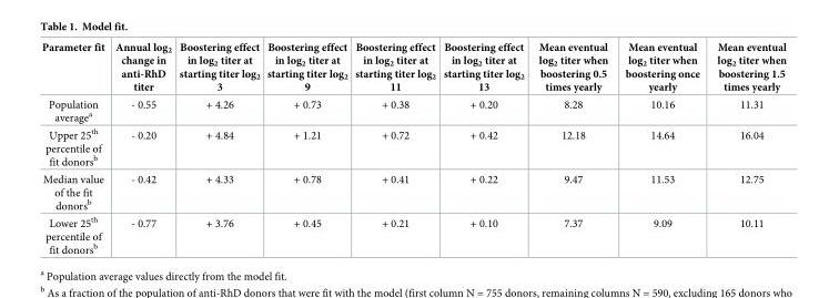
<table><thead><tr><td>Parameter fit</td><td>Annual log<sub>2</sub> change in anti-RhD titer</td><td>Boostering effect in log<sub>2</sub> titer at starting titer log<sub>2</sub> 3</td><td>Boostering effect in log<sub>2</sub> titer at starting titer log<sub>2</sub> 9</td><td>Boostering effect in log<sub>2</sub> titer at starting titer log<sub>2</sub> 11</td><td>Boostering effect in log<sub>2</sub> titer at starting titer log<sub>2</sub> 13</td><td>Mean eventual log<sub>2</sub> titer when boostering 0.5 times yearly</td><td>Mean eventual log<sub>2</sub> titer when boostering once yearly</td><td>Mean eventual log<sub>2</sub> titer when boostering 1.5 times yearly</td></tr></thead><tbody><tr><td>Population average<sup>a</sup></td><td>- 0.55</td><td>+ 4.26</td><td>+ 0.73</td><td>+ 0.38</td><td>+ 0.20</td><td>8.28</td><td>10.16</td><td>11.31</td></tr><tr><td>Upper 25<sup>th</sup> percentile of fit donors<sup>b</sup></td><td>- 0.20</td><td>+ 4.84</td><td>+ 1.21</td><td>+ 0.72</td><td>+ 0.42</td><td>12.18</td><td>14.64</td><td>16.04</td></tr><tr><td>Median value of the fit donors<sup>b</sup></td><td>- 0.42</td><td>+ 4.33</td><td>+ 0.78</td><td>+ 0.41</td><td>+ 0.22</td><td>9.47</td><td>11.53</td><td>12.75</td></tr><tr><td>Lower 25<sup>th</sup> percentile of fit donors<sup>b</sup></td><td>- 0.77</td><td>+ 3.76</td><td>+ 0.45</td><td>+ 0.21</td><td>+ 0.10</td><td>7.37</td><td>9.09</td><td>10.11</td></tr></tbody></table>